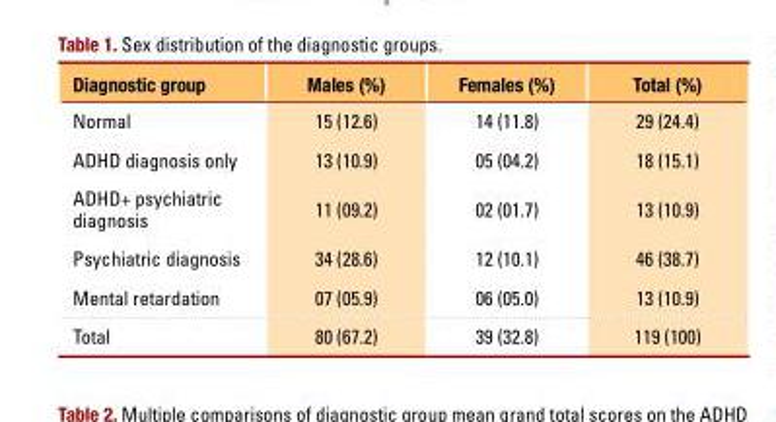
<table><thead><tr><td>Diagnostic group</td><td>Males (%)</td><td>Females (%)</td><td>Total (%)</td></tr></thead><tbody><tr><td>normal</td><td>15 (12.6)</td><td>14 (11.8)</td><td>29 (24.4)</td></tr><tr><td>Adhd diagnosis only</td><td>13 (10.9)</td><td>05 (04.2)</td><td>18 (15.1)</td></tr><tr><td>Adhd+ psychiatric diagnosis</td><td>11 (09.2)</td><td>02 (01.7)</td><td>13 (10.9)</td></tr><tr><td>Psychiatric diagnosis</td><td>34 (28.6)</td><td>12 (10.1)</td><td>46 (38.7)</td></tr><tr><td>Mental retardation</td><td>07 (05.9)</td><td>06 (05.0)</td><td>13 (10.9)</td></tr><tr><td>total</td><td>80 (67.2)</td><td>39 (32.8)</td><td>119 (100)</td></tr></tbody></table>